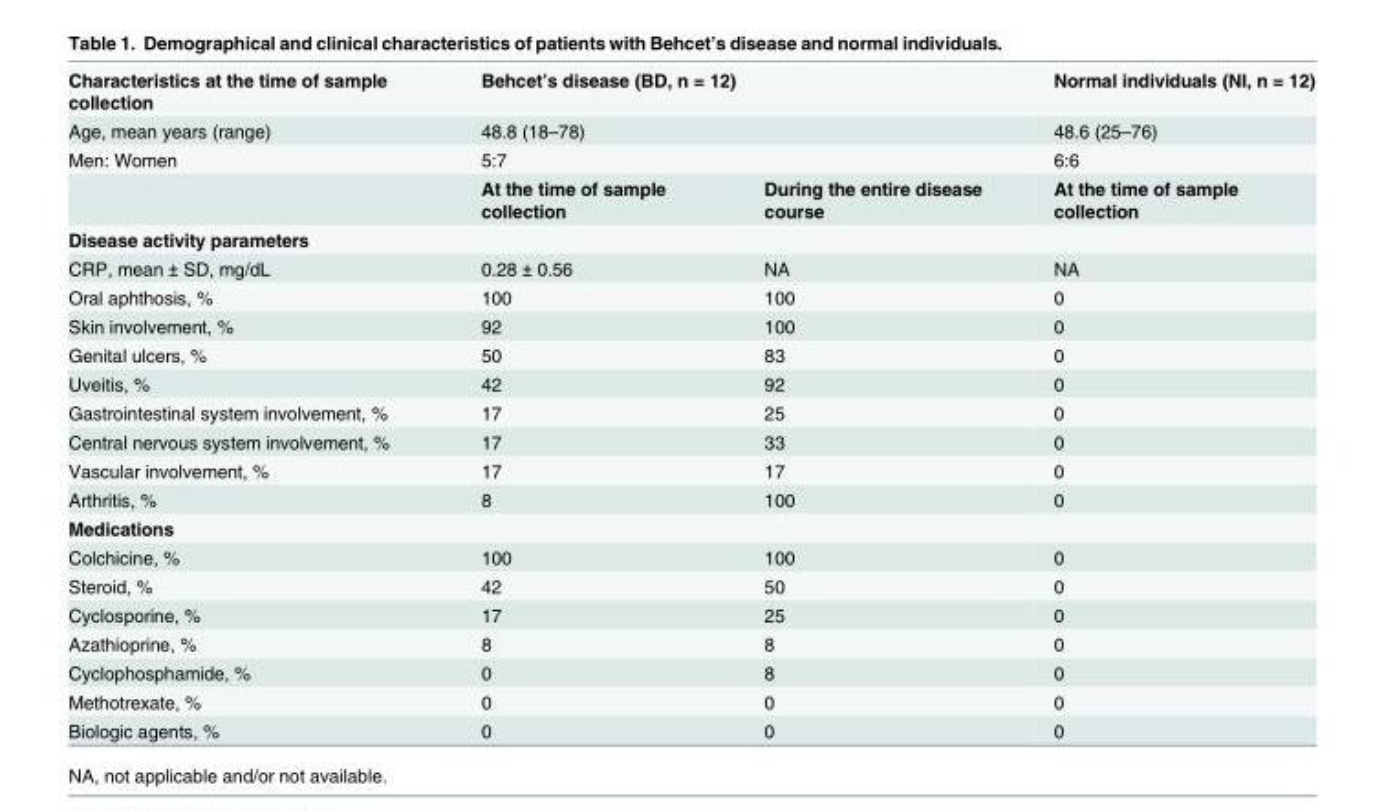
<table><thead><tr><td rowspan="4">Characteristics at the time of sample collection Age, mean years (range) Men: Women</td><td rowspan="3" colspan="2">Behcet’s disease (BD, n = 12) 48.8 (18–78) 5:7</td><td rowspan="4">Normal individuals (NI, n = 12) 48.6 (25–76) 6:6 At the time of sample collection</td></tr><tr></tr><tr></tr><tr><td>At the time of sample collection</td><td>During the entire disease course</td></tr></thead><tbody><tr><td colspan="4">Disease activity parameters</td></tr><tr><td>CRP, mean ± SD, mg/dL</td><td>0.28 ± 0.56</td><td>NA</td><td>NA</td></tr><tr><td>Oral aphthosis, %</td><td>100</td><td>100</td><td>0</td></tr><tr><td>Skin involvement, %</td><td>92</td><td>100</td><td>0</td></tr><tr><td>Genital ulcers, %</td><td>50</td><td>83</td><td>0</td></tr><tr><td>Uveitis, %</td><td>42</td><td>92</td><td>0</td></tr><tr><td>Gastrointestinal system involvement, %</td><td>17</td><td>25</td><td>0</td></tr><tr><td>Central nervous system involvement, %</td><td>17</td><td>33</td><td>0</td></tr><tr><td>Vascular involvement, %</td><td>17</td><td>17</td><td>0</td></tr><tr><td>Arthritis, %</td><td>8</td><td>100</td><td>0</td></tr><tr><td colspan="4">Medications</td></tr><tr><td>Colchicine, %</td><td>100</td><td>100</td><td>0</td></tr><tr><td>Steroid, %</td><td>42</td><td>50</td><td>0</td></tr><tr><td>Cyclosporine, %</td><td>17</td><td>25</td><td>0</td></tr><tr><td>Azathioprine, %</td><td>8</td><td>8</td><td>0</td></tr><tr><td>Cyclophosphamide, %</td><td>0</td><td>8</td><td>0</td></tr><tr><td>Methotrexate, %</td><td>0</td><td>0</td><td>0</td></tr><tr><td>Biologic agents, %</td><td>0</td><td>0</td><td>0</td></tr></tbody></table>